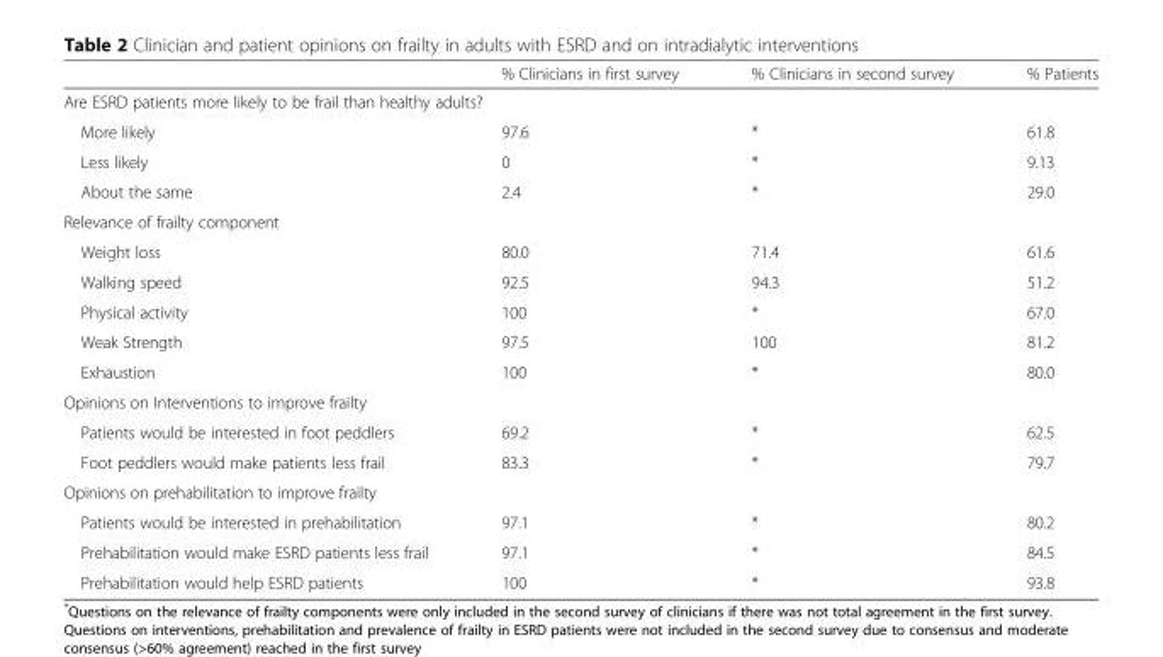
<table><thead><tr><td></td><td>% Clinicians in first survey</td><td>% Clinicians in second survey</td><td>% Patients</td></tr></thead><tbody><tr><td colspan="4">Are ESRD patients more likely to be frail than healthy adults?</td></tr><tr><td>More likely</td><td>97.6</td><td>*</td><td>61.8</td></tr><tr><td>Less likely</td><td>0</td><td>*</td><td>9.13</td></tr><tr><td>About the same</td><td>2.4</td><td>*</td><td>29.0</td></tr><tr><td colspan="4">Relevance of frailty component</td></tr><tr><td>Weight loss</td><td>80.0</td><td>71.4</td><td>61.6</td></tr><tr><td>Walking speed</td><td>92.5</td><td>94.3</td><td>51.2</td></tr><tr><td>Physical activity</td><td>100</td><td>*</td><td>67.0</td></tr><tr><td>Weak Strength</td><td>97.5</td><td>100</td><td>81.2</td></tr><tr><td>Exhaustion</td><td>100</td><td>*</td><td>80.0</td></tr><tr><td colspan="4">Opinions on Interventions to improve frailty</td></tr><tr><td>Patients would be interested in foot peddlers</td><td>69.2</td><td>*</td><td>62.5</td></tr><tr><td>Foot peddlers would make patients less frail</td><td>83.3</td><td>*</td><td>79.7</td></tr><tr><td colspan="4">Opinions on prehabilitation to improve frailty</td></tr><tr><td>Patients would be interested in prehabilitation</td><td>97.1</td><td>*</td><td>80.2</td></tr><tr><td>Prehabilitation would make ESRD patients less frail</td><td>97.1</td><td>*</td><td>84.5</td></tr><tr><td>Prehabilitation would help ESRD patients</td><td>100</td><td>*</td><td>93.8</td></tr></tbody></table>